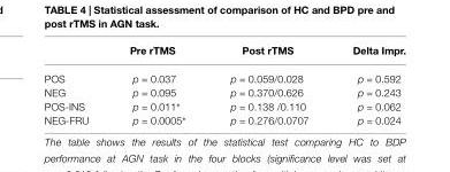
<table><thead><tr><td></td><td>Pre rTMS</td><td>Post rTMS</td><td>Delta Impr.</td></tr></thead><tbody><tr><td>POS</td><td>p = 0.037</td><td>p = 0.059/0.028</td><td>p = 0.592</td></tr><tr><td>NEG</td><td>p = 0.095</td><td>p = 0.370/0.626</td><td>p = 0.243</td></tr><tr><td>POS-INS</td><td>p = 0.011∗</td><td>p = 0.138 /0.110</td><td>p = 0.062</td></tr><tr><td>NEG-FRU</td><td>p = 0.0005∗</td><td>p = 0.276/0.0707</td><td>p = 0.024</td></tr></tbody></table>